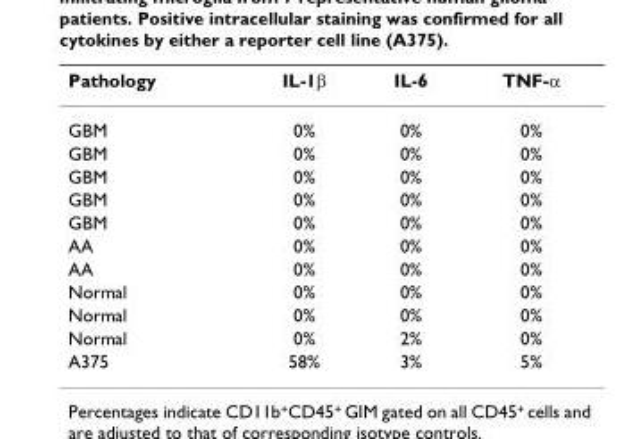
<table><thead><tr><td>Pathology</td><td>IL-1β</td><td>IL-6</td><td>TNF-α</td></tr></thead><tbody><tr><td>GBM</td><td>0%</td><td>0%</td><td>0%</td></tr><tr><td>GBM</td><td>0%</td><td>0%</td><td>0%</td></tr><tr><td>GBM</td><td>0%</td><td>0%</td><td>0%</td></tr><tr><td>GBM</td><td>0%</td><td>0%</td><td>0%</td></tr><tr><td>GBM</td><td>0%</td><td>0%</td><td>0%</td></tr><tr><td>AA</td><td>0%</td><td>0%</td><td>0%</td></tr><tr><td>AA</td><td>0%</td><td>0%</td><td>0%</td></tr><tr><td>Normal</td><td>0%</td><td>0%</td><td>0%</td></tr><tr><td>Normal</td><td>0%</td><td>0%</td><td>0%</td></tr><tr><td>Normal</td><td>0%</td><td>2%</td><td>0%</td></tr><tr><td>A375</td><td>58%</td><td>3%</td><td>5%</td></tr></tbody></table>